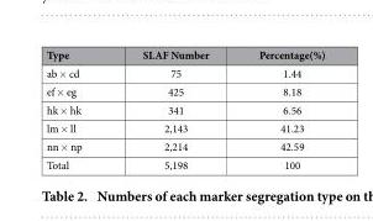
<table><thead><tr><td>Type</td><td>SLAF Number</td><td>Percentage(%)</td></tr></thead><tbody><tr><td>ab × cd</td><td>75</td><td>1.44</td></tr><tr><td>ef × eg</td><td>425</td><td>8.18</td></tr><tr><td>hk × hk</td><td>341</td><td>6.56</td></tr><tr><td>lm × ll</td><td>2,143</td><td>41.23</td></tr><tr><td>nn × np</td><td>2,214</td><td>42.59</td></tr><tr><td>Total</td><td>5,198</td><td>100</td></tr></tbody></table>